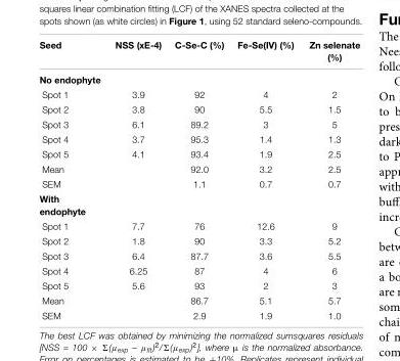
<table><thead><tr><td>Seed</td><td>NSS (xE-4)</td><td>C-Se-C (%)</td><td>Fe-Se(IV) (%)</td><td>Zn selenate (%)</td></tr></thead><tbody><tr><td colspan="5">No endophyte</td></tr><tr><td>Spot 1</td><td>3.9</td><td>92</td><td>4</td><td>2</td></tr><tr><td>Spot 2</td><td>3.8</td><td>90</td><td>5.5</td><td>1.5</td></tr><tr><td>Spot 3</td><td>6.1</td><td>89.2</td><td>3</td><td>5</td></tr><tr><td>Spot 4</td><td>3.7</td><td>95.3</td><td>1.4</td><td>1.3</td></tr><tr><td>Spot 5</td><td>4.1</td><td>93.4</td><td>1.9</td><td>2.5</td></tr><tr><td>Mean</td><td></td><td>92.0</td><td>3.2</td><td>2.5</td></tr><tr><td>SEM</td><td></td><td>1.1</td><td>0.7</td><td>0.7</td></tr><tr><td colspan="5">With endophyte</td></tr><tr><td>Spot 1</td><td>7.7</td><td>76</td><td>12.6</td><td>9</td></tr><tr><td>Spot 2</td><td>1.8</td><td>90</td><td>3.3</td><td>5.2</td></tr><tr><td>Spot 3</td><td>6.4</td><td>87.7</td><td>3.6</td><td>5.5</td></tr><tr><td>Spot 4</td><td>6.25</td><td>87</td><td>4</td><td>6</td></tr><tr><td>Spot 5</td><td>5.6</td><td>93</td><td>2</td><td>3</td></tr><tr><td>Mean</td><td></td><td>86.7</td><td>5.1</td><td>5.7</td></tr><tr><td>SEM</td><td></td><td>2.9</td><td>1.9</td><td>1.0</td></tr></tbody></table>